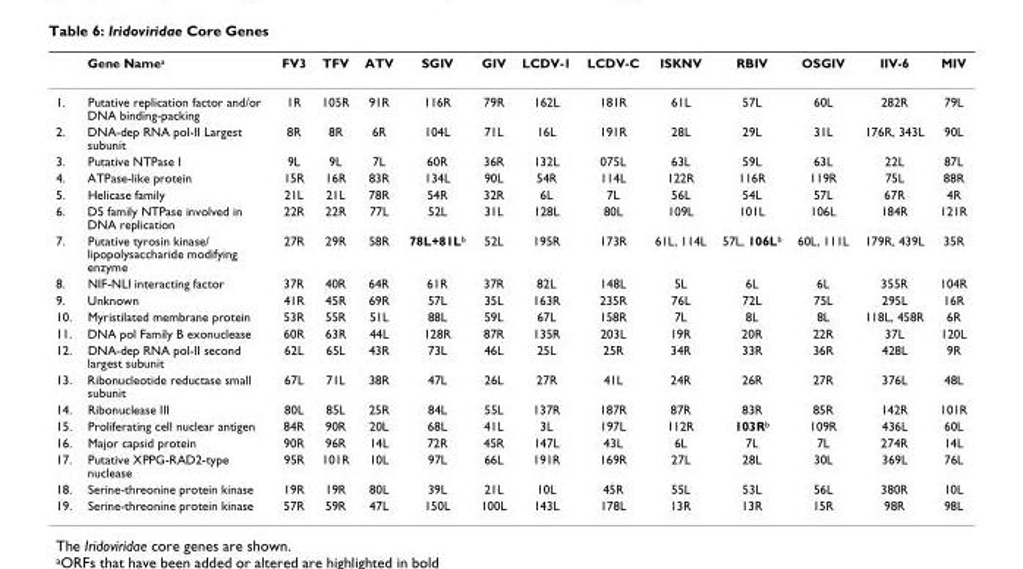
<table><thead><tr><td></td><td>Gene Name<sup>a</sup></td><td>FV3</td><td>TFV</td><td>ATV</td><td>SGIV</td><td>GIV</td><td>LCDV-1</td><td>LCDV-C</td><td>ISKNV</td><td>RBIV</td><td>OSGIV</td><td>IIV-6</td><td>MIV</td></tr></thead><tbody><tr><td>1.</td><td>Putative replication factor and/or DNA binding-packing</td><td>1R</td><td>105R</td><td>91R</td><td>116R</td><td>79R</td><td>162L</td><td>181R</td><td>61L</td><td>57L</td><td>60L</td><td>282R</td><td>79L</td></tr><tr><td>2.</td><td>DNA-dep RNA pol-II Largest subunit</td><td>8R</td><td>8R</td><td>6R</td><td>104L</td><td>71L</td><td>16L</td><td>191R</td><td>28L</td><td>29L</td><td>31L</td><td>176R, 343L</td><td>90L</td></tr><tr><td>3.</td><td>Putative NTPase I</td><td>9L</td><td>9L</td><td>7L</td><td>60R</td><td>36R</td><td>132L</td><td>075L</td><td>63L</td><td>59L</td><td>63L</td><td>22L</td><td>87L</td></tr><tr><td>4.</td><td>ATPase-like protein</td><td>15R</td><td>16R</td><td>83R</td><td>134L</td><td>90L</td><td>54R</td><td>114L</td><td>122R</td><td>116R</td><td>119R</td><td>75L</td><td>88R</td></tr><tr><td>5.</td><td>Helicase family</td><td>21L</td><td>21L</td><td>78R</td><td>54R</td><td>32R</td><td>6L</td><td>7L</td><td>56L</td><td>54L</td><td>57L</td><td>67R</td><td>4R</td></tr><tr><td>6.</td><td>D5 family NTPase involved in DNA replication</td><td>22R</td><td>22R</td><td>77L</td><td>52L</td><td>31L</td><td>128L</td><td>80L</td><td>109L</td><td>101L</td><td>106L</td><td>184R</td><td>121R</td></tr><tr><td>7.</td><td>Putative tyrosin kinase/ lipopolysaccharide modifying enzyme</td><td>27R</td><td>29R</td><td>58R</td><td>78L+81L<sup>b</sup></td><td>52L</td><td>195R</td><td>173R</td><td>61L, 114L</td><td>57L, 106L<sup>b</sup></td><td>60L, 111L</td><td>179R, 439L</td><td>35R</td></tr><tr><td>8.</td><td>NIF-NLI interacting factor</td><td>37R</td><td>40R</td><td>64R</td><td>61R</td><td>37R</td><td>82L</td><td>148L</td><td>5L</td><td>6L</td><td>6L</td><td>355R</td><td>104R</td></tr><tr><td>9.</td><td>Unknown</td><td>41R</td><td>45R</td><td>69R</td><td>57L</td><td>35L</td><td>163R</td><td>235R</td><td>76L</td><td>72L</td><td>75L</td><td>295L</td><td>16R</td></tr><tr><td>10.</td><td>Myristilated membrane protein</td><td>53R</td><td>55R</td><td>51L</td><td>88L</td><td>59L</td><td>67L</td><td>158R</td><td>7L</td><td>8L</td><td>8L</td><td>118L, 458R</td><td>6R</td></tr><tr><td>11.</td><td>DNA pol Family B exonuclease</td><td>60R</td><td>63R</td><td>44L</td><td>128R</td><td>87R</td><td>135R</td><td>203L</td><td>19R</td><td>20R</td><td>22R</td><td>37L</td><td>120L</td></tr><tr><td>12.</td><td>DNA-dep RNA pol-II second largest subunit</td><td>62L</td><td>65L</td><td>43R</td><td>73L</td><td>46L</td><td>25L</td><td>25R</td><td>34R</td><td>33R</td><td>36R</td><td>428L</td><td>9R</td></tr><tr><td>13.</td><td>Ribonucleotide reductase small subunit</td><td>67L</td><td>71L</td><td>38R</td><td>47L</td><td>26L</td><td>27R</td><td>41L</td><td>24R</td><td>26R</td><td>27R</td><td>376L</td><td>48L</td></tr><tr><td>14.</td><td>Ribonuclease III</td><td>80L</td><td>85L</td><td>25R</td><td>84L</td><td>55L</td><td>137R</td><td>187R</td><td>87R</td><td>83R</td><td>85R</td><td>142R</td><td>101R</td></tr><tr><td>15.</td><td>Proliferating cell nuclear antigen</td><td>84R</td><td>90R</td><td>20L</td><td>68L</td><td>41L</td><td>3L</td><td>197L</td><td>112R</td><td>103R<sup>b</sup></td><td>109R</td><td>436L</td><td>60L</td></tr><tr><td>16.</td><td>Major capsid protein</td><td>90R</td><td>96R</td><td>14L</td><td>72R</td><td>45R</td><td>147L</td><td>43L</td><td>6L</td><td>7L</td><td>7L</td><td>274R</td><td>14L</td></tr><tr><td>17.</td><td>Putative XPPG-RAD2-type nuclease</td><td>95R</td><td>101R</td><td>10L</td><td>97L</td><td>66L</td><td>191R</td><td>169R</td><td>27L</td><td>28L</td><td>30L</td><td>369L</td><td>76L</td></tr><tr><td>18.</td><td>Serine-threonine protein kinase</td><td>19R</td><td>19R</td><td>80L</td><td>39L</td><td>21L</td><td>10L</td><td>45R</td><td>55L</td><td>53L</td><td>56L</td><td>380R</td><td>10L</td></tr><tr><td>19.</td><td>Serine-threonine protein kinase</td><td>57R</td><td>59R</td><td>47L</td><td>150L</td><td>100L</td><td>143L</td><td>178L</td><td>13R</td><td>13R</td><td>15R</td><td>98R</td><td>98L</td></tr></tbody></table>